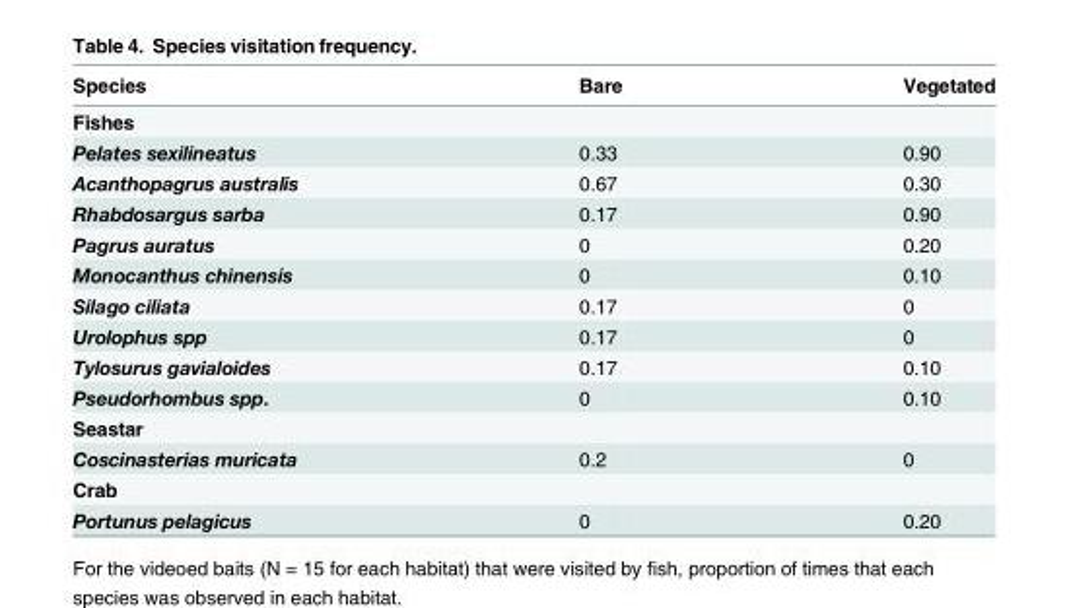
<table><thead><tr><td>Species</td><td>Bare</td><td>Vegetated</td></tr></thead><tbody><tr><td colspan="3">Fishes</td></tr><tr><td>Pelates sexilineatus</td><td>0.33</td><td>0.90</td></tr><tr><td>Acanthopagrus australis</td><td>0.67</td><td>0.30</td></tr><tr><td>Rhabdosargus sarba</td><td>0.17</td><td>0.90</td></tr><tr><td>Pagrus auratus</td><td>0</td><td>0.20</td></tr><tr><td>Monocanthus chinensis</td><td>0</td><td>0.10</td></tr><tr><td>Silago ciliata</td><td>0.17</td><td>0</td></tr><tr><td>Urolophus spp</td><td>0.17</td><td>0</td></tr><tr><td>Tylosurus gavialoides</td><td>0.17</td><td>0.10</td></tr><tr><td>Pseudorhombus spp.</td><td>0</td><td>0.10</td></tr><tr><td colspan="3">Seastar</td></tr><tr><td>Coscinasterias muricata</td><td>0.2</td><td>0</td></tr><tr><td colspan="3">Crab</td></tr><tr><td>Portunus pelagicus</td><td>0</td><td>0.20</td></tr></tbody></table>